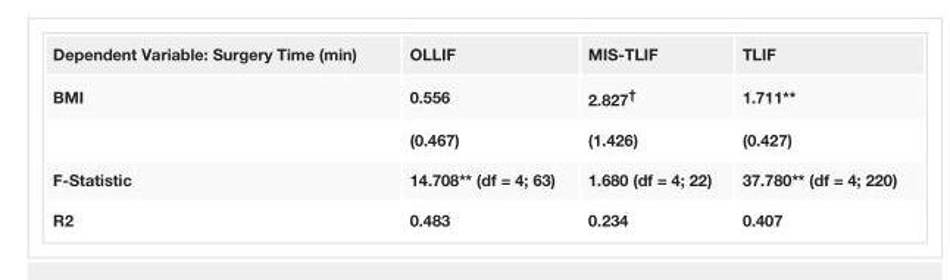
<table><tbody><tr><td>Dependent Variable: Surgery Time (min)</td><td>OLLIF</td><td>MIS-TLIF</td><td>TLIF</td></tr><tr><td rowspan="2">BMI</td><td>0.556</td><td>2.827<sup>†</sup></td><td>1.711**</td></tr><tr><td>(0.467)</td><td>(1.426)</td><td>(0.427)</td></tr><tr><td>F-Statistic</td><td>14.708** (df = 4; 63)</td><td>1.680 (df = 4; 22)</td><td>37.780** (df = 4; 220)</td></tr><tr><td>R2</td><td>0.483</td><td>0.234</td><td>0.407</td></tr></tbody></table>